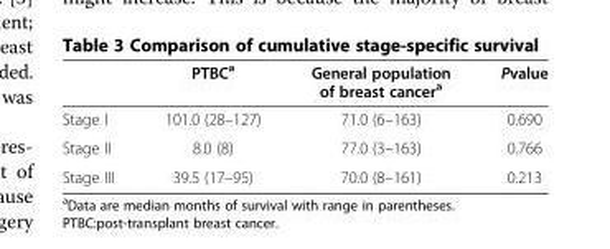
<table><thead><tr><td></td><td>PTBC<sup>a</sup></td><td>General population of breast cancer<sup>a</sup></td><td>Pvalue</td></tr></thead><tbody><tr><td>Stage I</td><td>101.0 (28–127)</td><td>71.0 (6–163)</td><td>0.690</td></tr><tr><td>Stage II</td><td>8.0 (8)</td><td>77.0 (3–163)</td><td>0.766</td></tr><tr><td>Stage III</td><td>39.5 (17–95)</td><td>70.0 (8–161)</td><td>0.213</td></tr></tbody></table>